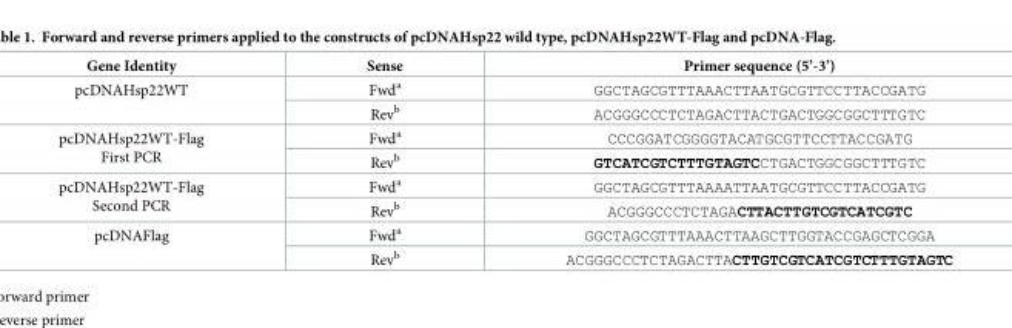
<table><thead><tr><td>Gene Identity</td><td>Sense</td><td>Primer sequence (5’-3’)</td></tr></thead><tbody><tr><td rowspan="2">pcDNAHsp22WT</td><td>Fwd<sup>a</sup></td><td>GGCTAGCGTTTAAACTTAATGCGTTCCTTACCGATG</td></tr><tr><td>Rev<sup>b</sup></td><td>ACGGGCCCTCTAGACTTACTGACTGGCGGCTTTGTC</td></tr><tr><td rowspan="2">pcDNAHsp22WT-Flag First PCR</td><td>Fwd<sup>a</sup></td><td>CCCGGATCGGGGTACATGCGTTCCTTACCGATG</td></tr><tr><td>Rev<sup>b</sup></td><td>GTCATCGTCTTTGTAGTCCTGACTGGCGGCTTTGTC</td></tr><tr><td rowspan="2">pcDNAHsp22WT-Flag Second PCR</td><td>Fwd<sup>a</sup></td><td>GGCTAGCGTTTAAAATTAATGCGTTCCTTACCGATG</td></tr><tr><td>Rev<sup>b</sup></td><td>ACGGGCCCTCTAGACTTACTTGTCGTCATCGTC</td></tr><tr><td rowspan="2">pcDNAFlag</td><td>Fwd<sup>a</sup></td><td>GGCTAGCGTTTAAACTTAAGCTTGGTACCGAGCTCGGA</td></tr><tr><td>Rev<sup>b</sup></td><td>ACGGGCCCTCTAGACTTACTTGTCGTCATCGTCTTTGTAGTC</td></tr></tbody></table>